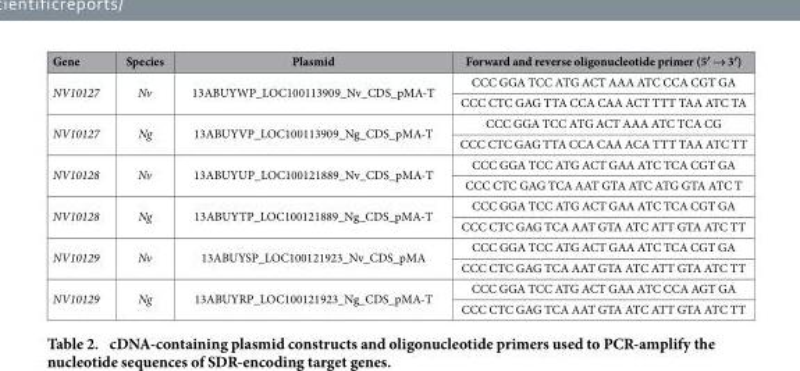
<table><thead><tr><td>Gene</td><td>Species</td><td>Plasmid</td><td>Forward and reverse oligonucleotide primer (5′ → 3′)</td></tr></thead><tbody><tr><td rowspan="2">NV10127</td><td rowspan="2">Nv</td><td rowspan="2">13ABUYWP_LOC100113909_Nv_CDS_pMA-T</td><td>CCC GGA TCC ATG ACT AAA ATC CCA CGT GA</td></tr><tr><td>CCC CTC GAG TTA CCA CAA ACT TTT TAA ATC TA</td></tr><tr><td rowspan="2">NV10127</td><td rowspan="2">Ng</td><td rowspan="2">13ABUYVP_LOC100113909_Ng_CDS_pMA-T</td><td>CCC GGA TCC ATG ACT AAA ATC TCA CG</td></tr><tr><td>CCC CTC GAG TTA CCA CAA ACA TTT TAA ATC TT</td></tr><tr><td rowspan="2">NV10128</td><td rowspan="2">Nv</td><td rowspan="2">13ABUYUP_LOC100121889_Nv_CDS_pMA-T</td><td>CCC GGA TCC ATG ACT GAA ATC TCA CGT GA</td></tr><tr><td>CCC CTC GAG TCA AAT GTA ATC ATG GTA ATC T</td></tr><tr><td rowspan="2">NV10128</td><td rowspan="2">Ng</td><td rowspan="2">13ABUYTP_LOC100121889_Ng_CDS_pMA-T</td><td>CCC GGA TCC ATG ACT GAA ATC TCA CGT GA</td></tr><tr><td>CCC CTC GAG TCA AAT GTA ATC ATT GTA ATC TT</td></tr><tr><td rowspan="2">NV10129</td><td rowspan="2">Nv</td><td rowspan="2">13ABUYSP_LOC100121923_Nv_CDS_pMA</td><td>CCC GGA TCC ATG ACT GAA ATC TCA CGT GA</td></tr><tr><td>CCC CTC GAG TCA AAT GTA ATC ATT GTA ATC TT</td></tr><tr><td rowspan="2">NV10129</td><td rowspan="2">Ng</td><td rowspan="2">13ABUYRP_LOC100121923_Ng_CDS_pMA-T</td><td>CCC GGA TCC ATG ACT GAA ATC CCA AGT GA</td></tr><tr><td>CCC CTC GAG TCA AAT GTA ATC ATT GTA ATC TT</td></tr></tbody></table>